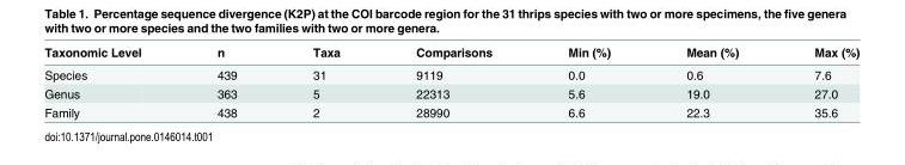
<table><thead><tr><td>Taxonomic Level</td><td>n</td><td>Taxa</td><td>Comparisons</td><td>Min (%)</td><td>Mean (%)</td><td>Max (%)</td></tr></thead><tbody><tr><td>Species</td><td>439</td><td>31</td><td>9119</td><td>0.0</td><td>0.6</td><td>7.6</td></tr><tr><td>Genus</td><td>363</td><td>5</td><td>22313</td><td>5.6</td><td>19.0</td><td>27.0</td></tr><tr><td>Family</td><td>438</td><td>2</td><td>28990</td><td>6.6</td><td>22.3</td><td>35.6</td></tr></tbody></table>